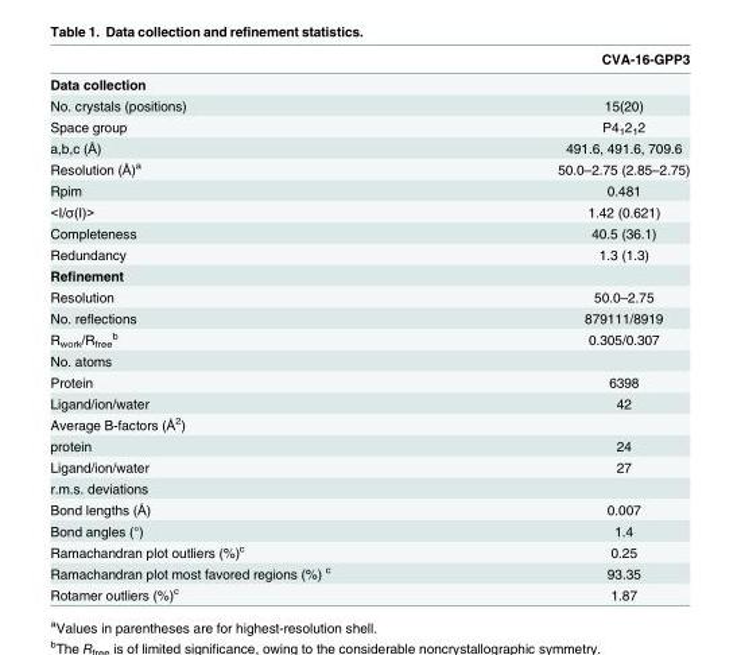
<table><thead><tr><td colspan="2">CVA-16-GPP3</td></tr><tr><td>Data collection</td><td></td></tr></thead><tbody><tr><td>No. crystals (positions)</td><td>15(20)</td></tr><tr><td>Space group</td><td>P4<sub>1</sub>2<sub>1</sub>2</td></tr><tr><td>a,b,c (Å)</td><td>491.6, 491.6, 709.6</td></tr><tr><td>Resolution (Å)<sup>a</sup></td><td>50.0–2.75 (2.85–2.75)</td></tr><tr><td>Rpim</td><td>0.481</td></tr><tr><td>&lt;I/σ(I)&gt;</td><td>1.42 (0.621)</td></tr><tr><td>Completeness</td><td>40.5 (36.1)</td></tr><tr><td>Redundancy</td><td>1.3 (1.3)</td></tr><tr><td colspan="2">Refinement</td></tr><tr><td>Resolution</td><td>50.0–2.75</td></tr><tr><td>No. reflections</td><td>879111/8919</td></tr><tr><td>R<sub>work</sub>/R<sub>free</sub> <sup>b</sup></td><td>0.305/0.307</td></tr><tr><td colspan="2">No. atoms</td></tr><tr><td>Protein</td><td>6398</td></tr><tr><td>Ligand/ion/water</td><td>42</td></tr><tr><td colspan="2">Average B-factors (Å<sup>2</sup>)</td></tr><tr><td>protein</td><td>24</td></tr><tr><td>Ligand/ion/water</td><td>27</td></tr><tr><td colspan="2">r.m.s. deviations</td></tr><tr><td>Bond lengths (Å)</td><td>0.007</td></tr><tr><td>Bond angles (°)</td><td>1.4</td></tr><tr><td>Ramachandran plot outliers (%)<sup>c</sup></td><td>0.25</td></tr><tr><td>Ramachandran plot most favored regions (%) <sup>c</sup></td><td>93.35</td></tr><tr><td>Rotamer outliers (%)<sup>c</sup></td><td>1.87</td></tr></tbody></table>